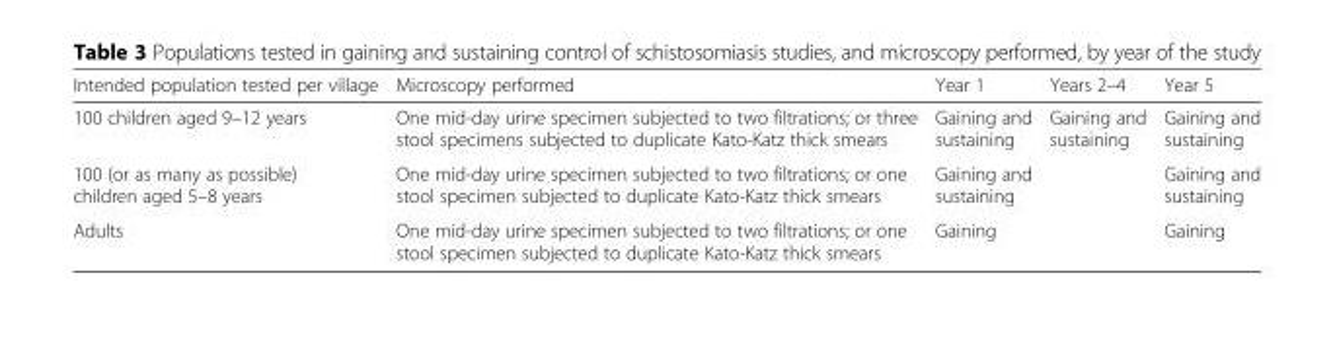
<table><thead><tr><td>Intended population tested per village</td><td>Microscopy performed</td><td>Year 1</td><td>Years 2–4</td><td>Year 5</td></tr></thead><tbody><tr><td>100 children aged 9–12 years</td><td>One mid-day urine specimen subjected to two filtrations; or three stool specimens subjected to duplicate Kato-Katz thick smears</td><td>Gaining and sustaining</td><td>Gaining and sustaining</td><td>Gaining and sustaining</td></tr><tr><td>100 (or as many as possible) children aged 5–8 years</td><td>One mid-day urine specimen subjected to two filtrations; or one stool specimen subjected to duplicate Kato-Katz thick smears</td><td>Gaining and sustaining</td><td></td><td>Gaining and sustaining</td></tr><tr><td>Adults</td><td>One mid-day urine specimen subjected to two filtrations; or one stool specimen subjected to duplicate Kato-Katz thick smears</td><td>Gaining</td><td></td><td>Gaining</td></tr></tbody></table>